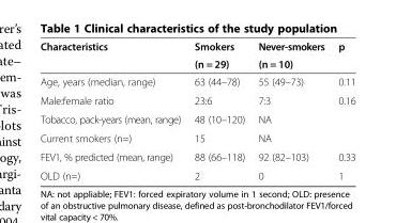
<table><thead><tr><td rowspan="2">Characteristics</td><td rowspan="2">Smokers (n = 29)</td><td rowspan="2">Never-smokers (n = 10)</td><td rowspan="2">p</td></tr><tr></tr></thead><tbody><tr><td>Age, years (median, range)</td><td>63 (44–78)</td><td>55 (49–73)</td><td>0.11</td></tr><tr><td>Male:female ratio</td><td>23:6</td><td>7:3</td><td>0.16</td></tr><tr><td>Tobacco, pack-years (mean, range)</td><td>48 (10–120)</td><td>NA</td><td></td></tr><tr><td>Current smokers (n=)</td><td>15</td><td>NA</td><td></td></tr><tr><td>FEV1, % predicted (mean, range)</td><td>88 (66–118)</td><td>92 (82–103)</td><td>0.33</td></tr><tr><td>OLD (n=)</td><td>2</td><td>0</td><td>1</td></tr></tbody></table>